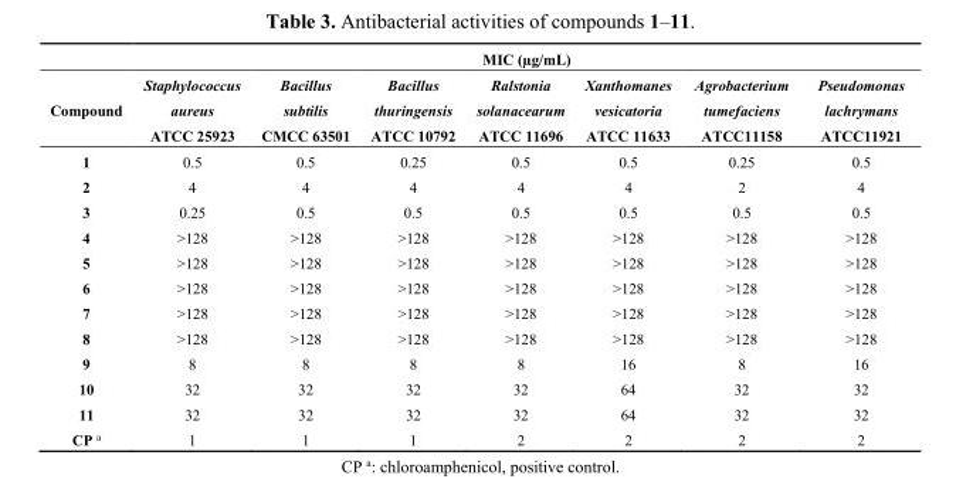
<table><thead><tr><td rowspan="2">Compound</td><td colspan="7">MIC (µg/mL)</td></tr><tr><td>Staphylococcus aureus ATCC 25923</td><td>Bacillus subtilis CMCC 63501</td><td>Bacillus thuringensis ATCC 10792</td><td>Ralstonia solanacearum ATCC 11696</td><td>Xanthomanes vesicatoria ATCC 11633</td><td>Agrobacterium tumefaciens ATCC11158</td><td>Pseudomonas lachrymans ATCC11921</td></tr></thead><tbody><tr><td>1</td><td>0.5</td><td>0.5</td><td>0.25</td><td>0.5</td><td>0.5</td><td>0.25</td><td>0.5</td></tr><tr><td>2</td><td>4</td><td>4</td><td>4</td><td>4</td><td>4</td><td>2</td><td>4</td></tr><tr><td>3</td><td>0.25</td><td>0.5</td><td>0.5</td><td>0.5</td><td>0.5</td><td>0.5</td><td>0.5</td></tr><tr><td>4</td><td>&gt;128</td><td>&gt;128</td><td>&gt;128</td><td>&gt;128</td><td>&gt;128</td><td>&gt;128</td><td>&gt;128</td></tr><tr><td>5</td><td>&gt;128</td><td>&gt;128</td><td>&gt;128</td><td>&gt;128</td><td>&gt;128</td><td>&gt;128</td><td>&gt;128</td></tr><tr><td>6</td><td>&gt;128</td><td>&gt;128</td><td>&gt;128</td><td>&gt;128</td><td>&gt;128</td><td>&gt;128</td><td>&gt;128</td></tr><tr><td>7</td><td>&gt;128</td><td>&gt;128</td><td>&gt;128</td><td>&gt;128</td><td>&gt;128</td><td>&gt;128</td><td>&gt;128</td></tr><tr><td>8</td><td>&gt;128</td><td>&gt;128</td><td>&gt;128</td><td>&gt;128</td><td>&gt;128</td><td>&gt;128</td><td>&gt;128</td></tr><tr><td>9</td><td>8</td><td>8</td><td>8</td><td>8</td><td>16</td><td>8</td><td>16</td></tr><tr><td>10</td><td>32</td><td>32</td><td>32</td><td>32</td><td>64</td><td>32</td><td>32</td></tr><tr><td>11</td><td>32</td><td>32</td><td>32</td><td>32</td><td>64</td><td>32</td><td>32</td></tr><tr><td>CP <sup>a</sup></td><td>1</td><td>1</td><td>1</td><td>2</td><td>2</td><td>2</td><td>2</td></tr></tbody></table>